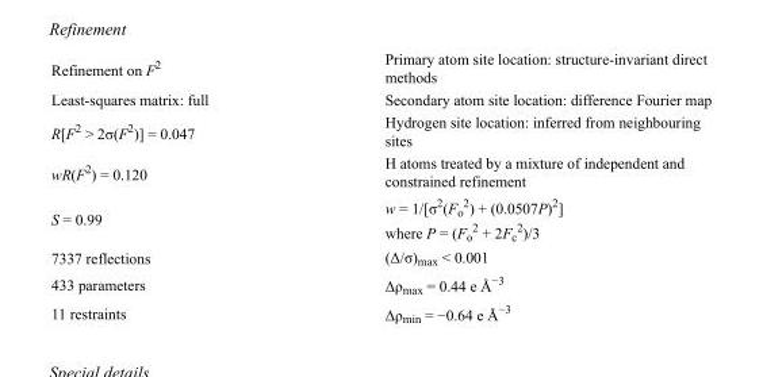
<table><tbody><tr><td>Refinement on F<sup>2</sup></td><td>Primary atom site location: structure-invariant direct methods</td></tr><tr><td>Least-squares matrix: full</td><td>Secondary atom site location: difference Fourier map</td></tr><tr><td>R[F<sup>2</sup> &gt; 2σ(F<sup>2</sup>)] = 0.047</td><td>Hydrogen site location: inferred from neighbouring sites</td></tr><tr><td>wR(F<sup>2</sup>) = 0.120</td><td>H atoms treated by a mixture of independent and constrained refinement</td></tr><tr><td>S = 0.99</td><td>w = 1/[σ<sup>2</sup>(F<sub>o</sub> <sup>2</sup>) + (0.0507P)<sup>2</sup>] where P = (F<sub>o</sub> <sup>2</sup> + 2F<sub>c</sub> <sup>2</sup>)/3</td></tr><tr><td>7337 reflections</td><td>(Δ/σ)<sub>max</sub> &lt; 0.001</td></tr><tr><td>433 parameters</td><td>Δρ<sub>max</sub> = 0.44 e Å<sup>−3</sup></td></tr><tr><td>11 restraints</td><td>Δρ<sub>min</sub> = −0.64 e Å<sup>−3</sup></td></tr></tbody></table>